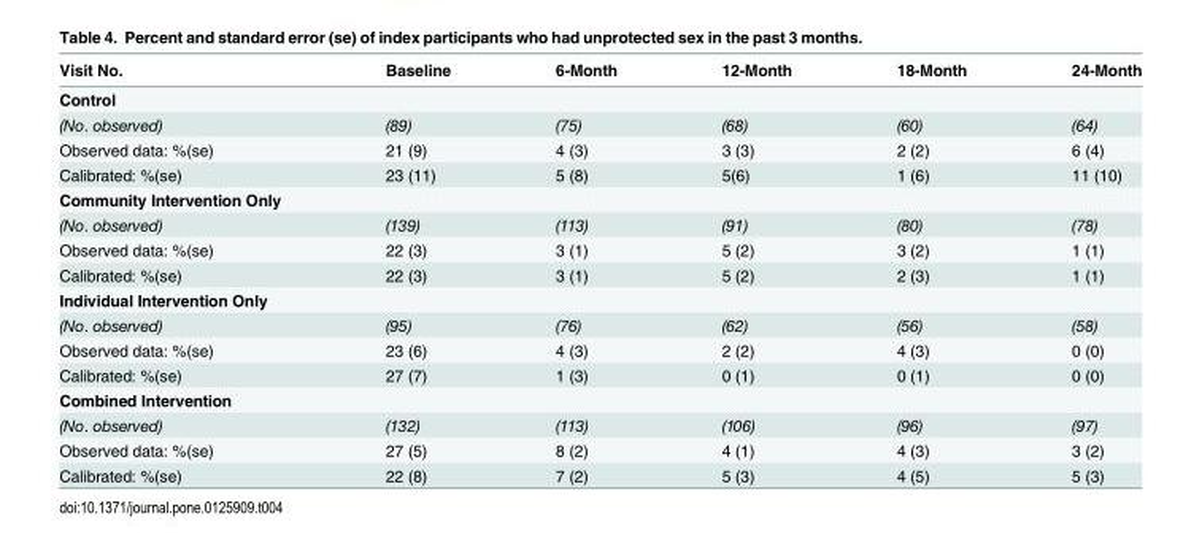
<table><thead><tr><td>Visit No.</td><td>Baseline</td><td>6-Month</td><td>12-Month</td><td>18-Month</td><td>24-Month</td></tr></thead><tbody><tr><td colspan="6">Control</td></tr><tr><td>(No. observed)</td><td>(89)</td><td>(75)</td><td>(68)</td><td>(60)</td><td>(64)</td></tr><tr><td>Observed data: %(se)</td><td>21 (9)</td><td>4 (3)</td><td>3 (3)</td><td>2 (2)</td><td>6 (4)</td></tr><tr><td>Calibrated: %(se)</td><td>23 (11)</td><td>5 (8)</td><td>5(6)</td><td>1 (6)</td><td>11 (10)</td></tr><tr><td colspan="6">Community Intervention Only</td></tr><tr><td>(No. observed)</td><td>(139)</td><td>(113)</td><td>(91)</td><td>(80)</td><td>(78)</td></tr><tr><td>Observed data: %(se)</td><td>22 (3)</td><td>3 (1)</td><td>5 (2)</td><td>3 (2)</td><td>1 (1)</td></tr><tr><td>Calibrated: %(se)</td><td>22 (3)</td><td>3 (1)</td><td>5 (2)</td><td>2 (3)</td><td>1 (1)</td></tr><tr><td colspan="6">Individual Intervention Only</td></tr><tr><td>(No. observed)</td><td>(95)</td><td>(76)</td><td>(62)</td><td>(56)</td><td>(58)</td></tr><tr><td>Observed data: %(se)</td><td>23 (6)</td><td>4 (3)</td><td>2 (2)</td><td>4 (3)</td><td>0 (0)</td></tr><tr><td>Calibrated: %(se)</td><td>27 (7)</td><td>1 (3)</td><td>0 (1)</td><td>0 (1)</td><td>0 (0)</td></tr><tr><td colspan="6">Combined Intervention</td></tr><tr><td>(No. observed)</td><td>(132)</td><td>(113)</td><td>(106)</td><td>(96)</td><td>(97)</td></tr><tr><td>Observed data: %(se)</td><td>27 (5)</td><td>8 (2)</td><td>4 (1)</td><td>4 (3)</td><td>3 (2)</td></tr><tr><td>Calibrated: %(se)</td><td>22 (8)</td><td>7 (2)</td><td>5 (3)</td><td>4 (5)</td><td>5 (3)</td></tr></tbody></table>